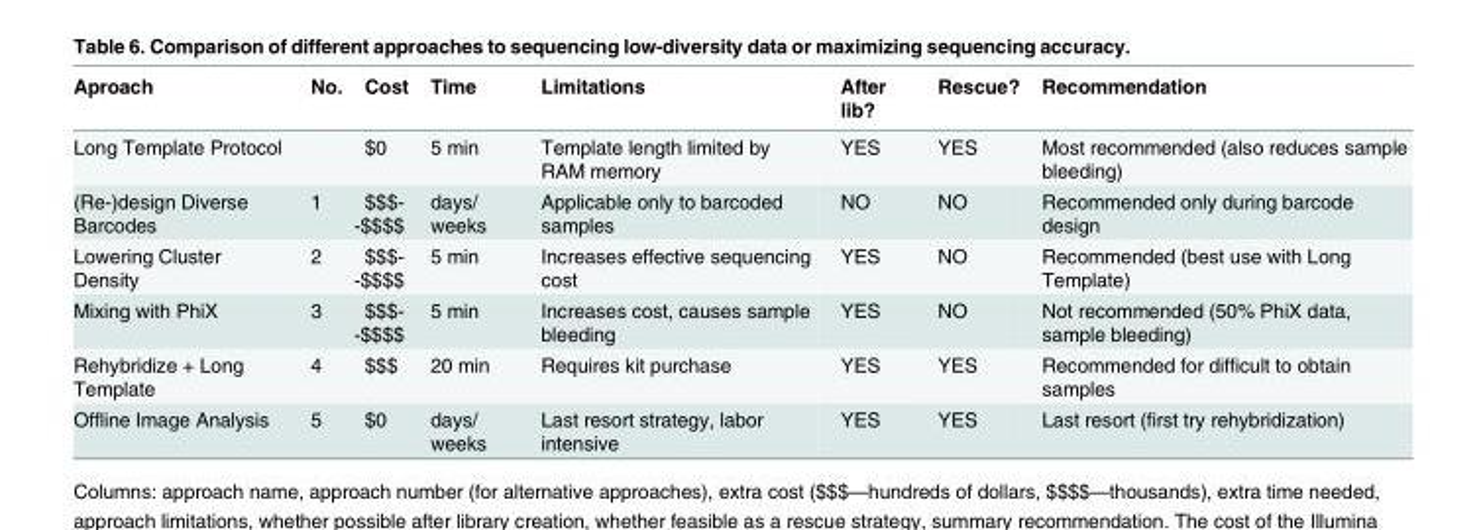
<table><thead><tr><td>Aproach</td><td>No.</td><td>Cost</td><td>Time</td><td>Limitations</td><td>After lib?</td><td>Rescue?</td><td>Recommendation</td></tr></thead><tbody><tr><td>Long Template Protocol</td><td></td><td>$0</td><td>5 min</td><td>Template length limited by RAM memory</td><td>YES</td><td>YES</td><td>Most recommended (also reduces sample bleeding)</td></tr><tr><td>(Re-)design Diverse Barcodes</td><td>1</td><td>$$$- -$$$$</td><td>days/ weeks</td><td>Applicable only to barcoded samples</td><td>NO</td><td>NO</td><td>Recommended only during barcode design</td></tr><tr><td>Lowering Cluster Density</td><td>2</td><td>$$$- -$$$$</td><td>5 min</td><td>Increases effective sequencing cost</td><td>YES</td><td>NO</td><td>Recommended (best use with Long Template)</td></tr><tr><td>Mixing with PhiX</td><td>3</td><td>$$$- -$$$$</td><td>5 min</td><td>Increases cost, causes sample bleeding</td><td>YES</td><td>NO</td><td>Not recommended (50% PhiX data, sample bleeding)</td></tr><tr><td>Rehybridize + Long Template</td><td>4</td><td>$$$</td><td>20 min</td><td>Requires kit purchase</td><td>YES</td><td>YES</td><td>Recommended for difficult to obtain samples</td></tr><tr><td>Offline Image Analysis</td><td>5</td><td>$0</td><td>days/ weeks</td><td>Last resort strategy, labor intensive</td><td>YES</td><td>YES</td><td>Last resort (first try rehybridization)</td></tr></tbody></table>